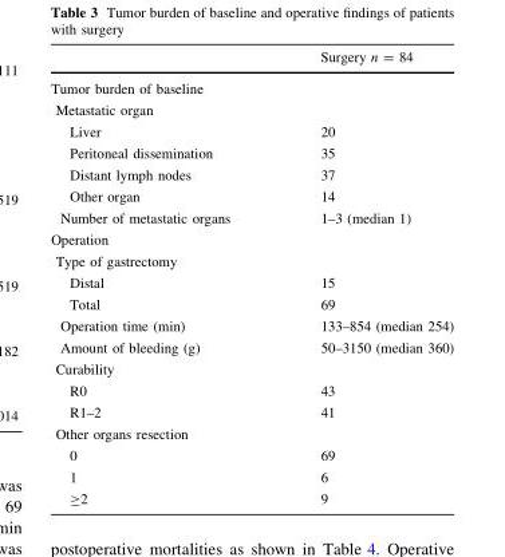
<table><thead><tr><td></td><td>Surgery n = 84</td></tr></thead><tbody><tr><td colspan="2">Tumor burden of baseline</td></tr><tr><td colspan="2">Metastatic organ</td></tr><tr><td>Liver</td><td>20</td></tr><tr><td>Peritoneal dissemination</td><td>35</td></tr><tr><td>Distant lymph nodes</td><td>37</td></tr><tr><td>Other organ</td><td>14</td></tr><tr><td>Number of metastatic organs</td><td>1–3 (median 1)</td></tr><tr><td colspan="2">Operation</td></tr><tr><td colspan="2">Type of gastrectomy</td></tr><tr><td>Distal</td><td>15</td></tr><tr><td>Total</td><td>69</td></tr><tr><td>Operation time (min)</td><td>133–854 (median 254)</td></tr><tr><td>Amount of bleeding (g)</td><td>50–3150 (median 360)</td></tr><tr><td colspan="2">Curability</td></tr><tr><td>R0</td><td>43</td></tr><tr><td>R1–2</td><td>41</td></tr><tr><td colspan="2">Other organs resection</td></tr><tr><td>0</td><td>69</td></tr><tr><td>1</td><td>6</td></tr><tr><td>≥2</td><td>9</td></tr></tbody></table>